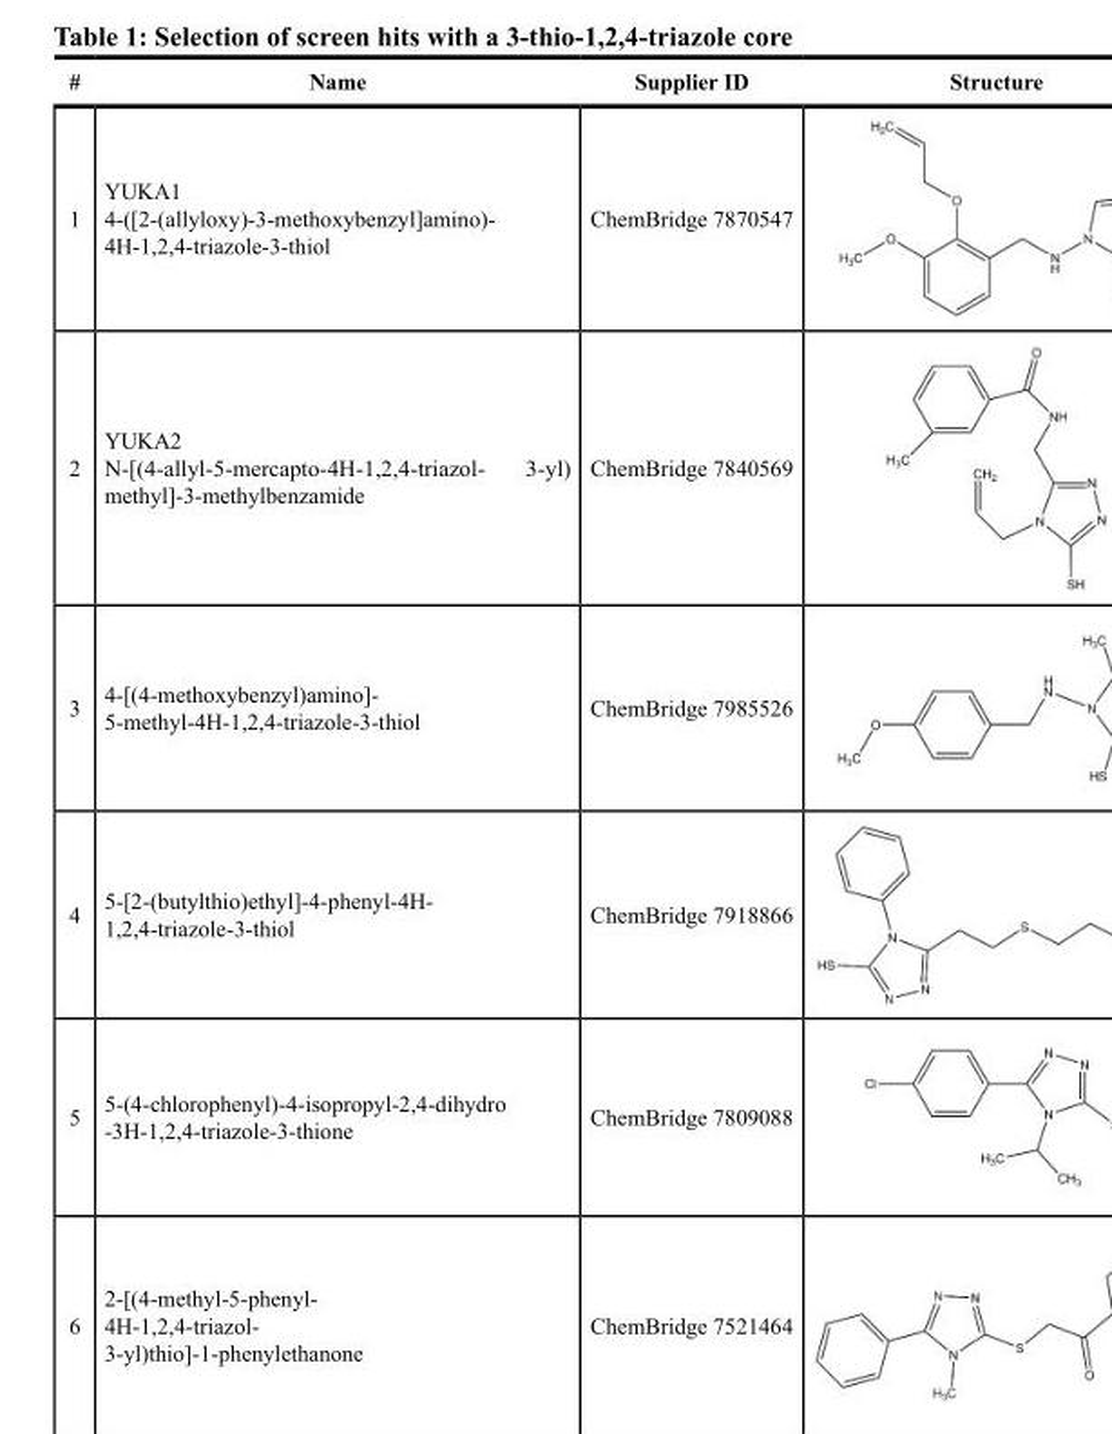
<table><thead><tr><td>#</td><td>name</td><td>Supplier ID</td><td>Structure</td></tr></thead><tbody><tr><td>1</td><td>YUKA1 4-([2-(allyloxy)-3-methoxybenzyl]amino)- 4H-1,2,4-triazole-3-thiol</td><td>ChemBridge 7870547</td><td></td></tr><tr><td>2</td><td>YUKA2 N-[(4-allyl-5-mercapto-4H-1,2,4-triazol- 3-yl) methyl]-3-methylbenzamide</td><td>ChemBridge 7840569</td><td></td></tr><tr><td>3</td><td>4-[(4-methoxybenzyl)amino]- 5-methyl-4H-1,2,4-triazole-3-thiol</td><td>ChemBridge 7985526</td><td></td></tr><tr><td>4</td><td>5-[2-(butylthio)ethyl]-4-phenyl-4H- 1,2,4-triazole-3-thiol</td><td>ChemBridge 7918866</td><td></td></tr><tr><td>5</td><td>5-(4-chlorophenyl)-4-isopropyl-2,4-dihydro -3H-1,2,4-triazole-3-thione</td><td>ChemBridge 7809088</td><td></td></tr><tr><td>6</td><td>2-[(4-methyl-5-phenyl- 4H-1,2,4-triazol- 3-yl)thio]-1-phenylethanone</td><td>ChemBridge 7521464</td><td></td></tr></tbody></table>